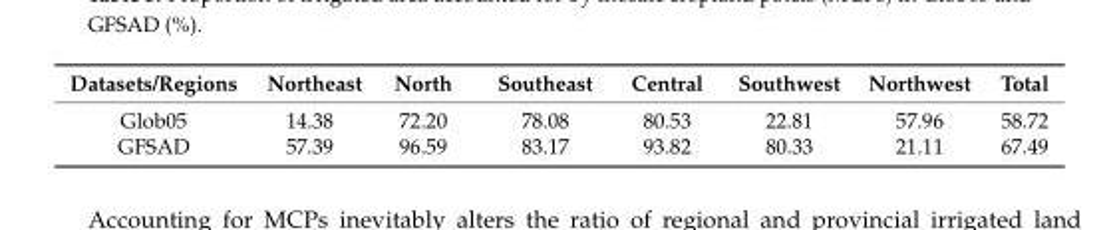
<table><thead><tr><td>Datasets/Regions</td><td>Northeast</td><td>North</td><td>Southeast</td><td>Central</td><td>Southwest</td><td>Northwest</td><td>Total</td></tr></thead><tbody><tr><td>Glob05</td><td>14.38</td><td>72.20</td><td>78.08</td><td>80.53</td><td>22.81</td><td>57.96</td><td>58.72</td></tr><tr><td>GFSAD</td><td>57.39</td><td>96.59</td><td>83.17</td><td>93.82</td><td>80.33</td><td>21.11</td><td>67.49</td></tr></tbody></table>